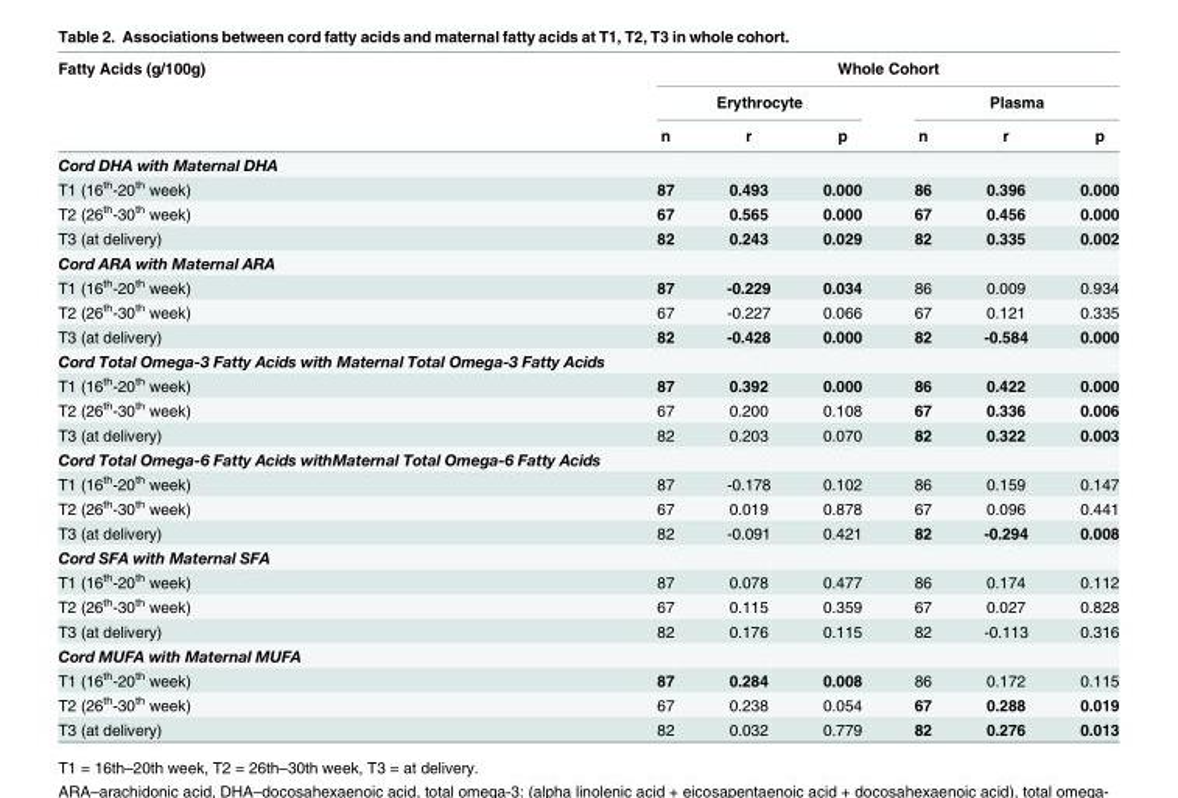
<table><thead><tr><td rowspan="3">Fatty Acids (g/100g)</td><td colspan="6">Whole Cohort</td></tr><tr><td colspan="3">Erythrocyte</td><td colspan="3">Plasma</td></tr><tr><td>n</td><td>r</td><td>p</td><td>n</td><td>r</td><td>p</td></tr></thead><tbody><tr><td colspan="7">Cord DHA with Maternal DHA</td></tr><tr><td>T1 (16<sup>th</sup>-20<sup>th</sup> week)</td><td>87</td><td>0.493</td><td>0.000</td><td>86</td><td>0.396</td><td>0.000</td></tr><tr><td>T2 (26<sup>th</sup>-30<sup>th</sup> week)</td><td>67</td><td>0.565</td><td>0.000</td><td>67</td><td>0.456</td><td>0.000</td></tr><tr><td>T3 (at delivery)</td><td>82</td><td>0.243</td><td>0.029</td><td>82</td><td>0.335</td><td>0.002</td></tr><tr><td colspan="7">Cord ARA with Maternal ARA</td></tr><tr><td>T1 (16<sup>th</sup>-20<sup>th</sup> week)</td><td>87</td><td>-0.229</td><td>0.034</td><td>86</td><td>0.009</td><td>0.934</td></tr><tr><td>T2 (26<sup>th</sup>-30<sup>th</sup> week)</td><td>67</td><td>-0.227</td><td>0.066</td><td>67</td><td>0.121</td><td>0.335</td></tr><tr><td>T3 (at delivery)</td><td>82</td><td>-0.428</td><td>0.000</td><td>82</td><td>-0.584</td><td>0.000</td></tr><tr><td colspan="7">Cord Total Omega-3 Fatty Acids with Maternal Total Omega-3 Fatty Acids</td></tr><tr><td>T1 (16<sup>th</sup>-20<sup>th</sup> week)</td><td>87</td><td>0.392</td><td>0.000</td><td>86</td><td>0.422</td><td>0.000</td></tr><tr><td>T2 (26<sup>th</sup>-30<sup>th</sup> week)</td><td>67</td><td>0.200</td><td>0.108</td><td>67</td><td>0.336</td><td>0.006</td></tr><tr><td>T3 (at delivery)</td><td>82</td><td>0.203</td><td>0.070</td><td>82</td><td>0.322</td><td>0.003</td></tr><tr><td colspan="7">Cord Total Omega-6 Fatty Acids withMaternal Total Omega-6 Fatty Acids</td></tr><tr><td>T1 (16<sup>th</sup>-20<sup>th</sup> week)</td><td>87</td><td>-0.178</td><td>0.102</td><td>86</td><td>0.159</td><td>0.147</td></tr><tr><td>T2 (26<sup>th</sup>-30<sup>th</sup> week)</td><td>67</td><td>0.019</td><td>0.878</td><td>67</td><td>0.096</td><td>0.441</td></tr><tr><td>T3 (at delivery)</td><td>82</td><td>-0.091</td><td>0.421</td><td>82</td><td>-0.294</td><td>0.008</td></tr><tr><td colspan="7">Cord SFA with Maternal SFA</td></tr><tr><td>T1 (16<sup>th</sup>-20<sup>th</sup> week)</td><td>87</td><td>0.078</td><td>0.477</td><td>86</td><td>0.174</td><td>0.112</td></tr><tr><td>T2 (26<sup>th</sup>-30<sup>th</sup> week)</td><td>67</td><td>0.115</td><td>0.359</td><td>67</td><td>0.027</td><td>0.828</td></tr><tr><td>T3 (at delivery)</td><td>82</td><td>0.176</td><td>0.115</td><td>82</td><td>-0.113</td><td>0.316</td></tr><tr><td colspan="7">Cord MUFA with Maternal MUFA</td></tr><tr><td>T1 (16<sup>th</sup>-20<sup>th</sup> week)</td><td>87</td><td>0.284</td><td>0.008</td><td>86</td><td>0.172</td><td>0.115</td></tr><tr><td>T2 (26<sup>th</sup>-30<sup>th</sup> week)</td><td>67</td><td>0.238</td><td>0.054</td><td>67</td><td>0.288</td><td>0.019</td></tr><tr><td>T3 (at delivery)</td><td>82</td><td>0.032</td><td>0.779</td><td>82</td><td>0.276</td><td>0.013</td></tr></tbody></table>